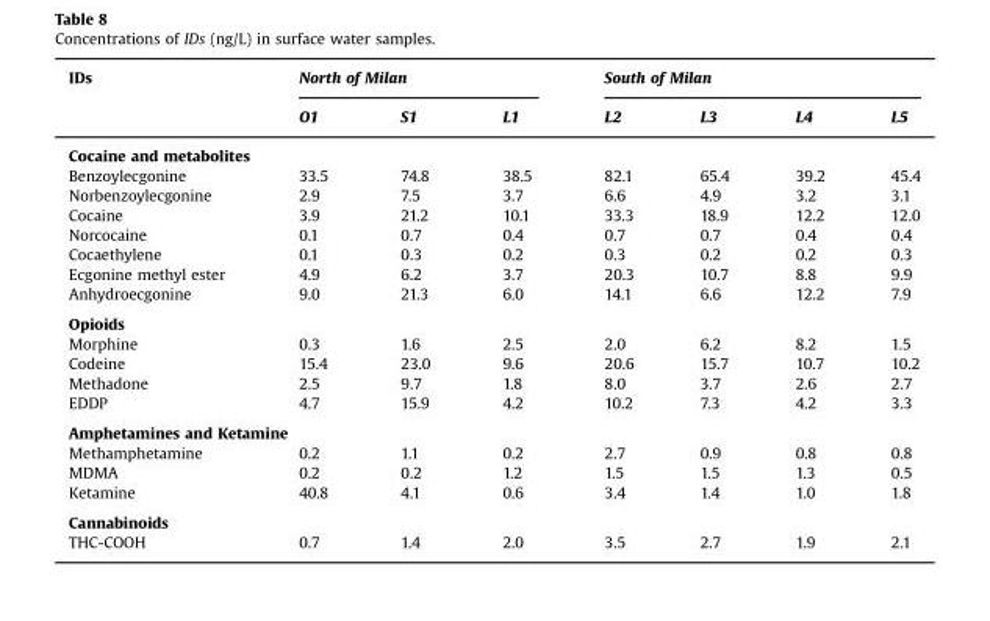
<table><thead><tr><td rowspan="2">IDs</td><td colspan="3">North of Milan</td><td colspan="4">South of Milan</td></tr><tr><td>O1</td><td>S1</td><td>L1</td><td>L2</td><td>L3</td><td>L4</td><td>L5</td></tr></thead><tbody><tr><td colspan="8">Cocaine and metabolites</td></tr><tr><td>Benzoylecgonine</td><td>33.5</td><td>74.8</td><td>38.5</td><td>82.1</td><td>65.4</td><td>39.2</td><td>45.4</td></tr><tr><td>Norbenzoylecgonine</td><td>2.9</td><td>7.5</td><td>3.7</td><td>6.6</td><td>4.9</td><td>3.2</td><td>3.1</td></tr><tr><td>Cocaine</td><td>3.9</td><td>21.2</td><td>10.1</td><td>33.3</td><td>18.9</td><td>12.2</td><td>12.0</td></tr><tr><td>Norcocaine</td><td>0.1</td><td>0.7</td><td>0.4</td><td>0.7</td><td>0.7</td><td>0.4</td><td>0.4</td></tr><tr><td>Cocaethylene</td><td>0.1</td><td>0.3</td><td>0.2</td><td>0.3</td><td>0.2</td><td>0.2</td><td>0.3</td></tr><tr><td>Ecgonine methyl ester</td><td>4.9</td><td>6.2</td><td>3.7</td><td>20.3</td><td>10.7</td><td>8.8</td><td>9.9</td></tr><tr><td>Anhydroecgonine</td><td>9.0</td><td>21.3</td><td>6.0</td><td>14.1</td><td>6.6</td><td>12.2</td><td>7.9</td></tr><tr><td colspan="8">Opioids</td></tr><tr><td>Morphine</td><td>0.3</td><td>1.6</td><td>2.5</td><td>2.0</td><td>6.2</td><td>8.2</td><td>1.5</td></tr><tr><td>Codeine</td><td>15.4</td><td>23.0</td><td>9.6</td><td>20.6</td><td>15.7</td><td>10.7</td><td>10.2</td></tr><tr><td>Methadone</td><td>2.5</td><td>9.7</td><td>1.8</td><td>8.0</td><td>3.7</td><td>2.6</td><td>2.7</td></tr><tr><td>EDDP</td><td>4.7</td><td>15.9</td><td>4.2</td><td>10.2</td><td>7.3</td><td>4.2</td><td>3.3</td></tr><tr><td colspan="8">Amphetamines and Ketamine</td></tr><tr><td>Methamphetamine</td><td>0.2</td><td>1.1</td><td>0.2</td><td>2.7</td><td>0.9</td><td>0.8</td><td>0.8</td></tr><tr><td>MDMA</td><td>0.2</td><td>0.2</td><td>1.2</td><td>1.5</td><td>1.5</td><td>1.3</td><td>0.5</td></tr><tr><td>Ketamine</td><td>40.8</td><td>4.1</td><td>0.6</td><td>3.4</td><td>1.4</td><td>1.0</td><td>1.8</td></tr><tr><td colspan="8">Cannabinoids</td></tr><tr><td>THC-COOH</td><td>0.7</td><td>1.4</td><td>2.0</td><td>3.5</td><td>2.7</td><td>1.9</td><td>2.1</td></tr></tbody></table>